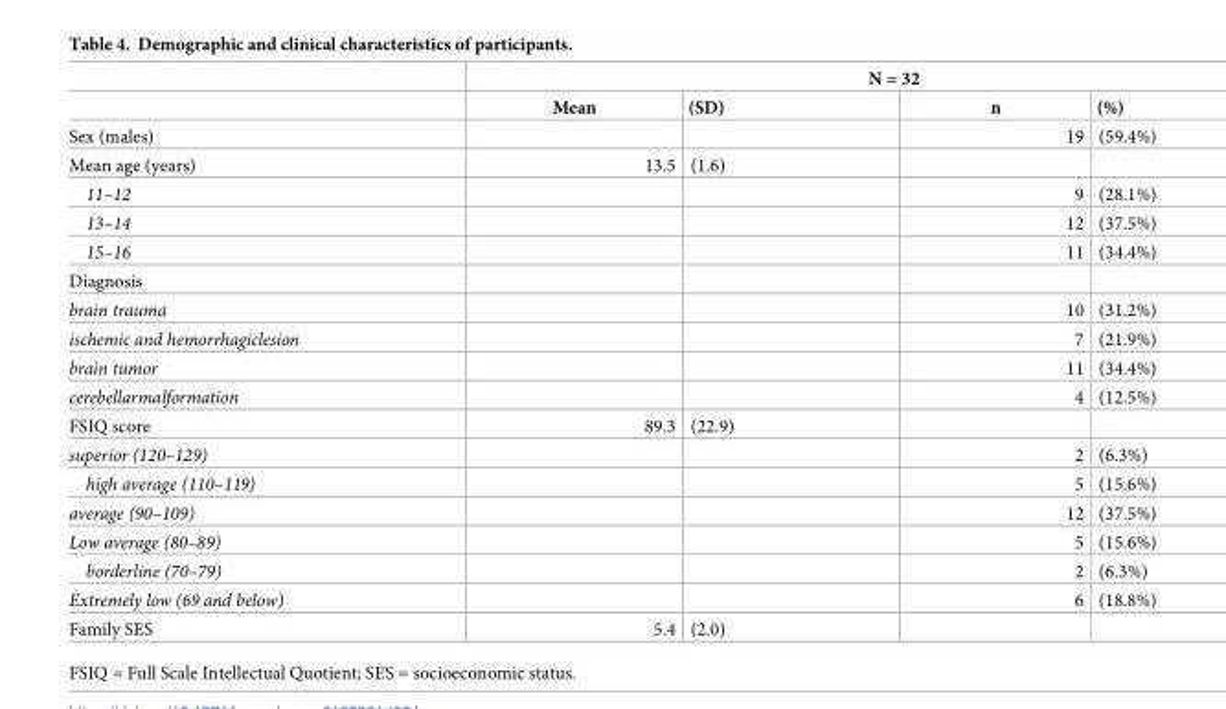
<table><thead><tr><td rowspan="2"></td><td colspan="4">N = 32</td></tr><tr><td>Mean</td><td>(SD)</td><td>n</td><td>(%)</td></tr></thead><tbody><tr><td>Sex (males)</td><td></td><td></td><td>19</td><td>(59.4%)</td></tr><tr><td>Mean age (years)</td><td>13.5</td><td>(1.6)</td><td></td><td></td></tr><tr><td>11–12</td><td></td><td></td><td>9</td><td>(28.1%)</td></tr><tr><td>13–14</td><td></td><td></td><td>12</td><td>(37.5%)</td></tr><tr><td>15–16</td><td></td><td></td><td>11</td><td>(34.4%)</td></tr><tr><td colspan="5">Diagnosis</td></tr><tr><td>brain trauma</td><td></td><td></td><td>10</td><td>(31.2%)</td></tr><tr><td>ischemic and hemorrhagiclesion</td><td></td><td></td><td>7</td><td>(21.9%)</td></tr><tr><td>brain tumor</td><td></td><td></td><td>11</td><td>(34.4%)</td></tr><tr><td>cerebellarmalformation</td><td></td><td></td><td>4</td><td>(12.5%)</td></tr><tr><td>FSIQ score</td><td>89.3</td><td>(22.9)</td><td></td><td></td></tr><tr><td>superior (120–129)</td><td></td><td></td><td>2</td><td>(6.3%)</td></tr><tr><td>high average (110–119)</td><td></td><td></td><td>5</td><td>(15.6%)</td></tr><tr><td>average (90–109)</td><td></td><td></td><td>12</td><td>(37.5%)</td></tr><tr><td>Low average (80–89)</td><td></td><td></td><td>5</td><td>(15.6%)</td></tr><tr><td>borderline (70–79)</td><td></td><td></td><td>2</td><td>(6.3%)</td></tr><tr><td>Extremely low (69 and below)</td><td></td><td></td><td>6</td><td>(18.8%)</td></tr><tr><td>Family SES</td><td>5.4</td><td>(2.0)</td><td></td><td></td></tr></tbody></table>